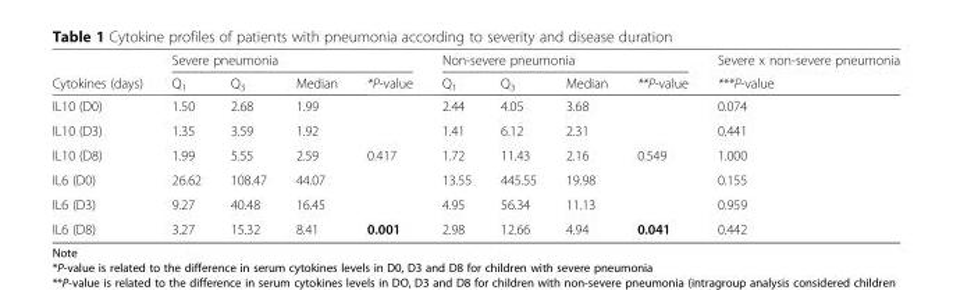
<table><thead><tr><td rowspan="2">Cytokines (days)</td><td colspan="4">Severe pneumonia</td><td colspan="4">Non-severe pneumonia</td><td rowspan="2">Severe x non-severe pneumonia ***P-value</td></tr><tr><td>Q<sub>1</sub></td><td>Q<sub>3</sub></td><td>Median</td><td>*P-value</td><td>Q<sub>1</sub></td><td>Q<sub>3</sub></td><td>Median</td><td>**P-value</td></tr></thead><tbody><tr><td>IL10 (D0)</td><td>1.50</td><td>2.68</td><td>1.99</td><td></td><td>2.44</td><td>4.05</td><td>3.68</td><td></td><td>0.074</td></tr><tr><td>IL10 (D3)</td><td>1.35</td><td>3.59</td><td>1.92</td><td></td><td>1.41</td><td>6.12</td><td>2.31</td><td></td><td>0.441</td></tr><tr><td>IL10 (D8)</td><td>1.99</td><td>5.55</td><td>2.59</td><td>0.417</td><td>1.72</td><td>11.43</td><td>2.16</td><td>0.549</td><td>1.000</td></tr><tr><td>IL6 (D0)</td><td>26.62</td><td>108.47</td><td>44.07</td><td></td><td>13.55</td><td>445.55</td><td>19.98</td><td></td><td>0.155</td></tr><tr><td>IL6 (D3)</td><td>9.27</td><td>40.48</td><td>16.45</td><td></td><td>4.95</td><td>56.34</td><td>11.13</td><td></td><td>0.959</td></tr><tr><td>IL6 (D8)</td><td>3.27</td><td>15.32</td><td>8.41</td><td>0.001</td><td>2.98</td><td>12.66</td><td>4.94</td><td>0.041</td><td>0.442</td></tr></tbody></table>